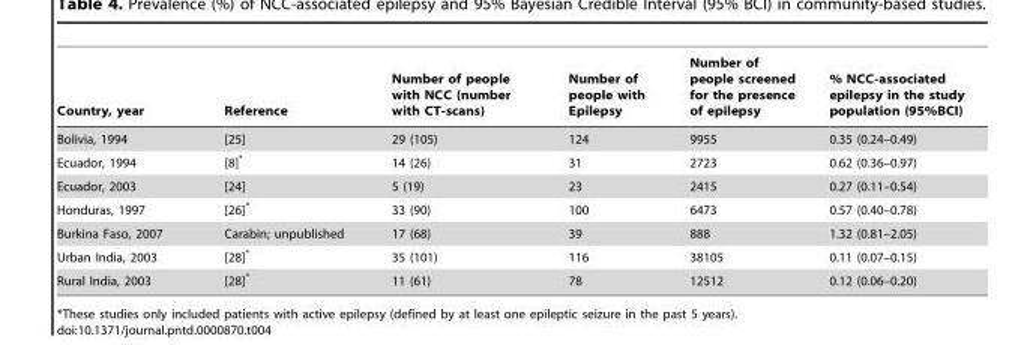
<table><thead><tr><td>Country, year</td><td>Reference</td><td>Number of people with NCC (number with CT-scans)</td><td>Number of people with Epilepsy</td><td>Number of people screened for the presence of epilepsy</td><td>% NCC-associated epilepsy in the study population (95%BCI)</td></tr></thead><tbody><tr><td>Bolivia, 1994</td><td>[25]</td><td>29 (105)</td><td>124</td><td>9955</td><td>0.35 (0.24–0.49)</td></tr><tr><td>Ecuador, 1994</td><td>[8]*</td><td>14 (26)</td><td>31</td><td>2723</td><td>0.62 (0.36–0.97)</td></tr><tr><td>Ecuador, 2003</td><td>[24]</td><td>5 (19)</td><td>23</td><td>2415</td><td>0.27 (0.11–0.54)</td></tr><tr><td>Honduras, 1997</td><td>[26]*</td><td>33 (90)</td><td>100</td><td>6473</td><td>0.57 (0.40–0.78)</td></tr><tr><td>Burkina Faso, 2007</td><td>Carabin; unpublished</td><td>17 (68)</td><td>39</td><td>888</td><td>1.32 (0.81–2.05)</td></tr><tr><td>Urban India, 2003</td><td>[28]*</td><td>35 (101)</td><td>116</td><td>38105</td><td>0.11 (0.07–0.15)</td></tr><tr><td>Rural India, 2003</td><td>[28]*</td><td>11 (61)</td><td>78</td><td>12512</td><td>0.12 (0.06–0.20)</td></tr></tbody></table>